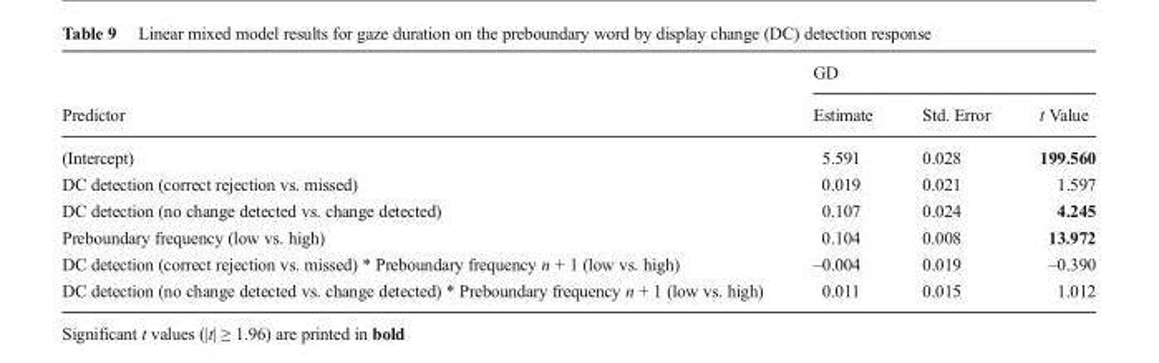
<table><thead><tr><td rowspan="2">Predictor</td><td colspan="3">GD</td></tr><tr><td>Estimate</td><td>Std. Error</td><td>t Value</td></tr></thead><tbody><tr><td>(Intercept)</td><td>5.591</td><td>0.028</td><td>199.560</td></tr><tr><td>DC detection (correct rejection vs. missed)</td><td>0.019</td><td>0.021</td><td>1.597</td></tr><tr><td>DC detection (no change detected vs. change detected)</td><td>0.107</td><td>0.024</td><td>4.245</td></tr><tr><td>Preboundary frequency (low vs. high)</td><td>0.104</td><td>0.008</td><td>13.972</td></tr><tr><td>DC detection (correct rejection vs. missed) * Preboundary frequency n + 1 (low vs. high)</td><td>–0.004</td><td>0.019</td><td>–0.390</td></tr><tr><td>DC detection (no change detected vs. change detected) * Preboundary frequency n + 1 (low vs. high)</td><td>0.011</td><td>0.015</td><td>1.012</td></tr></tbody></table>